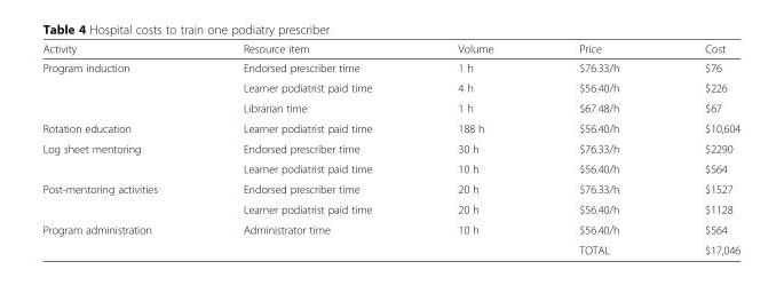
<table><thead><tr><td>Activity</td><td>Resource item</td><td>Volume</td><td>Price</td><td>Cost</td></tr></thead><tbody><tr><td rowspan="3">Program induction</td><td>Endorsed prescriber time</td><td>1 h</td><td>$76.33/h</td><td>$76</td></tr><tr><td>Learner podiatrist paid time</td><td>4 h</td><td>$56.40/h</td><td>$226</td></tr><tr><td>Librarian time</td><td>1 h</td><td>$67.48/h</td><td>$67</td></tr><tr><td>Rotation education</td><td>Learner podiatrist paid time</td><td>188 h</td><td>$56.40/h</td><td>$10,604</td></tr><tr><td rowspan="2">Log sheet mentoring</td><td>Endorsed prescriber time</td><td>30 h</td><td>$76.33/h</td><td>$2290</td></tr><tr><td>Learner podiatrist paid time</td><td>10 h</td><td>$56.40/h</td><td>$564</td></tr><tr><td rowspan="2">Post-mentoring activities</td><td>Endorsed prescriber time</td><td>20 h</td><td>$76.33/h</td><td>$1527</td></tr><tr><td>Learner podiatrist paid time</td><td>20 h</td><td>$56.40/h</td><td>$1128</td></tr><tr><td>Program administration</td><td>Administrator time</td><td>10 h</td><td>$56.40/h</td><td>$564</td></tr><tr><td colspan="3"></td><td>TOTAL</td><td>$17,046</td></tr></tbody></table>